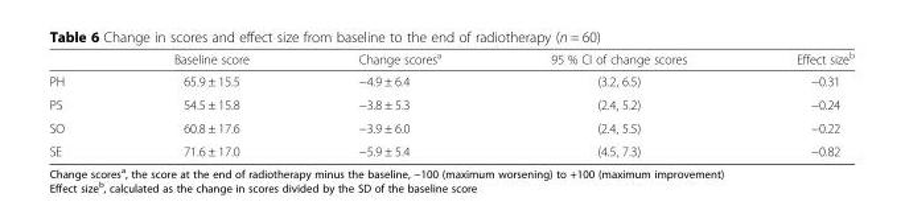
<table><thead><tr><td></td><td>Baseline score</td><td>Change scores<sup>a</sup></td><td>95 % CI of change scores</td><td>Effect size<sup>b</sup></td></tr></thead><tbody><tr><td>PH</td><td>65.9 ± 15.5</td><td>−4.9 ± 6.4</td><td>(3.2, 6.5)</td><td>−0.31</td></tr><tr><td>PS</td><td>54.5 ± 15.8</td><td>−3.8 ± 5.3</td><td>(2.4, 5.2)</td><td>−0.24</td></tr><tr><td>SO</td><td>60.8 ± 17.6</td><td>−3.9 ± 6.0</td><td>(2.4, 5.5)</td><td>−0.22</td></tr><tr><td>SE</td><td>71.6 ± 17.0</td><td>−5.9 ± 5.4</td><td>(4.5, 7.3)</td><td>−0.82</td></tr></tbody></table>